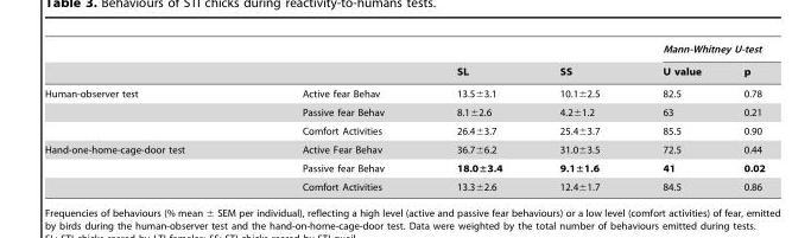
<table><thead><tr><td rowspan="2"></td><td rowspan="2"></td><td rowspan="2">SL</td><td rowspan="2">SS</td><td colspan="2">Mann-Whitney U-test</td></tr><tr><td>U value</td><td>p</td></tr></thead><tbody><tr><td rowspan="3">Human-observer test</td><td>Active fear Behav</td><td>13.5±3.1</td><td>10.1±2.5</td><td>82.5</td><td>0.78</td></tr><tr><td>Passive fear Behav</td><td>8.1±2.6</td><td>4.2±1.2</td><td>63</td><td>0.21</td></tr><tr><td>Comfort Activities</td><td>26.4±3.7</td><td>25.4±3.7</td><td>85.5</td><td>0.90</td></tr><tr><td rowspan="3">Hand-one-home-cage-door test</td><td>Active Fear Behav</td><td>36.7±6.2</td><td>31.0±3.5</td><td>72.5</td><td>0.44</td></tr><tr><td>Passive fear Behav</td><td>18.0±3.4</td><td>9.1±1.6</td><td>41</td><td>0.02</td></tr><tr><td>Comfort Activities</td><td>13.3±2.6</td><td>12.4±1.7</td><td>84.5</td><td>0.86</td></tr></tbody></table>